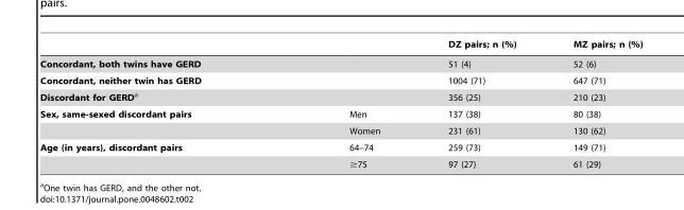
<table><thead><tr><td></td><td></td><td>DZ pairs; n (%)</td><td>MZ pairs; n (%)</td></tr></thead><tbody><tr><td colspan="2">Concordant, both twins have GERD</td><td>51 (4)</td><td>52 (6)</td></tr><tr><td colspan="2">Concordant, neither twin has GERD</td><td>1004 (71)</td><td>647 (71)</td></tr><tr><td colspan="2">Discordant for GERDa</td><td>356 (25)</td><td>210 (23)</td></tr><tr><td rowspan="2">Sex, same-sexed discordant pairs</td><td>Men</td><td>137 (38)</td><td>80 (38)</td></tr><tr><td>Women</td><td>231 (61)</td><td>130 (62)</td></tr><tr><td rowspan="2">Age (in years), discordant pairs</td><td>64–74</td><td>259 (73)</td><td>149 (71)</td></tr><tr><td>≥75</td><td>97 (27)</td><td>61 (29)</td></tr></tbody></table>